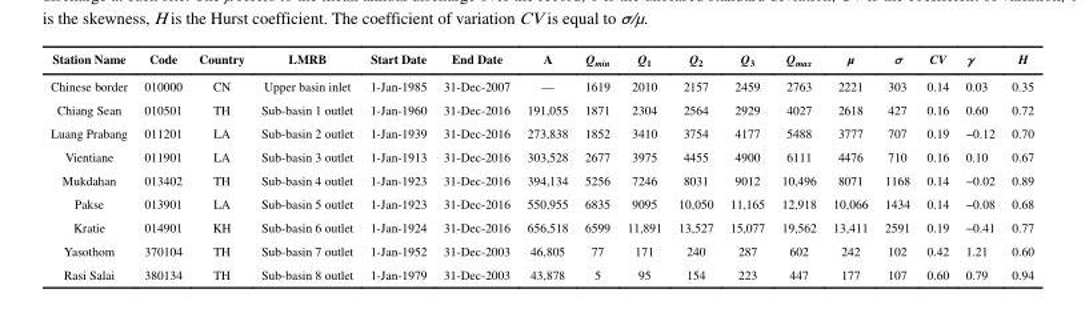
<table><thead><tr><td>Station Name</td><td>Code</td><td>Country</td><td>LMRB</td><td>Start Date</td><td>End Date</td><td>A</td><td>Q<sub>min</sub></td><td>Q<sub>1</sub></td><td>Q<sub>2</sub></td><td>Q<sub>3</sub></td><td>Q<sub>max</sub></td><td>μ</td><td>σ</td><td>CV</td><td>γ</td><td>H</td></tr></thead><tbody><tr><td>Chinese border</td><td>010000</td><td>CN</td><td>Upper basin inlet</td><td>1-Jan-1985</td><td>31-Dec-2007</td><td>—</td><td>1619</td><td>2010</td><td>2157</td><td>2459</td><td>2763</td><td>2221</td><td>303</td><td>0.14</td><td>0.03</td><td>0.35</td></tr><tr><td>Chiang Sean</td><td>010501</td><td>TH</td><td>Sub-basin 1 outlet</td><td>1-Jan-1960</td><td>31-Dec-2016</td><td>191,055</td><td>1871</td><td>2304</td><td>2564</td><td>2929</td><td>4027</td><td>2618</td><td>427</td><td>0.16</td><td>0.60</td><td>0.72</td></tr><tr><td>Luang Prabang</td><td>011201</td><td>LA</td><td>Sub-basin 2 outlet</td><td>1-Jan-1939</td><td>31-Dec-2016</td><td>273,838</td><td>1852</td><td>3410</td><td>3754</td><td>4177</td><td>5488</td><td>3777</td><td>707</td><td>0.19</td><td>−0.12</td><td>0.70</td></tr><tr><td>Vientiane</td><td>011901</td><td>LA</td><td>Sub-basin 3 outlet</td><td>1-Jan-1913</td><td>31-Dec-2016</td><td>303,528</td><td>2677</td><td>3975</td><td>4455</td><td>4900</td><td>6111</td><td>4476</td><td>710</td><td>0.16</td><td>0.10</td><td>0.67</td></tr><tr><td>Mukdahan</td><td>013402</td><td>TH</td><td>Sub-basin 4 outlet</td><td>1-Jan-1923</td><td>31-Dec-2016</td><td>394,134</td><td>5256</td><td>7246</td><td>8031</td><td>9012</td><td>10,496</td><td>8071</td><td>1168</td><td>0.14</td><td>−0.02</td><td>0.89</td></tr><tr><td>Pakse</td><td>013901</td><td>LA</td><td>Sub-basin 5 outlet</td><td>1-Jan-1923</td><td>31-Dec-2016</td><td>550,955</td><td>6835</td><td>9095</td><td>10,050</td><td>11,165</td><td>12,918</td><td>10,066</td><td>1434</td><td>0.14</td><td>−0.08</td><td>0.68</td></tr><tr><td>Kratie</td><td>014901</td><td>KH</td><td>Sub-basin 6 outlet</td><td>1-Jan-1924</td><td>31-Dec-2016</td><td>656,518</td><td>6599</td><td>11,891</td><td>13,527</td><td>15,077</td><td>19,562</td><td>13,411</td><td>2591</td><td>0.19</td><td>−0.41</td><td>0.77</td></tr><tr><td>Yasothom</td><td>370104</td><td>TH</td><td>Sub-basin 7 outlet</td><td>1-Jan-1952</td><td>31-Dec-2003</td><td>46,805</td><td>77</td><td>171</td><td>240</td><td>287</td><td>602</td><td>242</td><td>102</td><td>0.42</td><td>1.21</td><td>0.60</td></tr><tr><td>Rasi Salai</td><td>380134</td><td>TH</td><td>Sub-basin 8 outlet</td><td>1-Jan-1979</td><td>31-Dec-2003</td><td>43,878</td><td>5</td><td>95</td><td>154</td><td>223</td><td>447</td><td>177</td><td>107</td><td>0.60</td><td>0.79</td><td>0.94</td></tr></tbody></table>